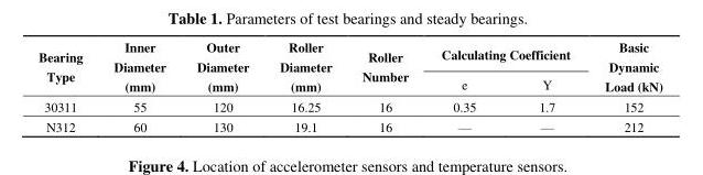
<table><thead><tr><td rowspan="2">Bearing Type</td><td rowspan="2">Inner Diameter (mm)</td><td rowspan="2">Outer Diameter (mm)</td><td rowspan="2">Roller Diameter (mm)</td><td rowspan="2">Roller Number</td><td colspan="2">Calculating Coefficient</td><td rowspan="2">Basic Dynamic Load (kN)</td></tr><tr><td>e</td><td>Y</td></tr></thead><tbody><tr><td>30311</td><td>55</td><td>120</td><td>16.25</td><td>16</td><td>0.35</td><td>1.7</td><td>152</td></tr><tr><td>N312</td><td>60</td><td>130</td><td>19.1</td><td>16</td><td>—</td><td>—</td><td>212</td></tr></tbody></table>